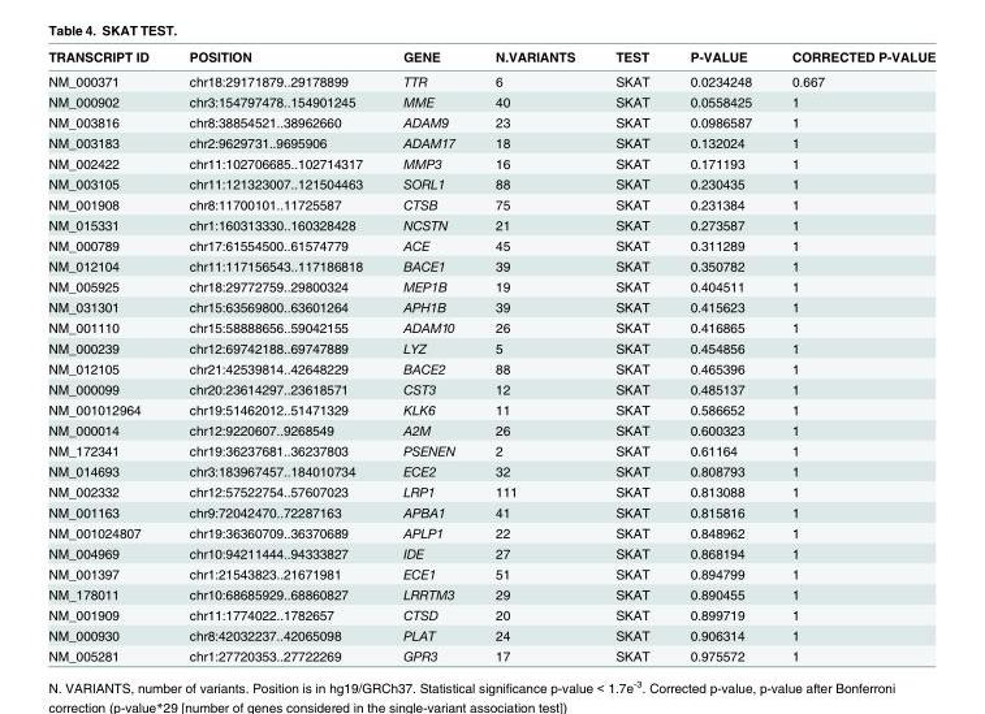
<table><thead><tr><td>TRANSCRIPT ID</td><td>POSITION</td><td>GENE</td><td>N.VARIANTS</td><td>TEST</td><td>P-VALUE</td><td>CORRECTED P-VALUE</td></tr></thead><tbody><tr><td>NM_000371</td><td>chr18:29171879..29178899</td><td>TTR</td><td>6</td><td>SKAT</td><td>0.0234248</td><td>0.667</td></tr><tr><td>NM_000902</td><td>chr3:154797478..154901245</td><td>MME</td><td>40</td><td>SKAT</td><td>0.0558425</td><td>1</td></tr><tr><td>NM_003816</td><td>chr8:38854521..38962660</td><td>ADAM9</td><td>23</td><td>SKAT</td><td>0.0986587</td><td>1</td></tr><tr><td>NM_003183</td><td>chr2:9629731..9695906</td><td>ADAM17</td><td>18</td><td>SKAT</td><td>0.132024</td><td>1</td></tr><tr><td>NM_002422</td><td>chr11:102706685..102714317</td><td>MMP3</td><td>16</td><td>SKAT</td><td>0.171193</td><td>1</td></tr><tr><td>NM_003105</td><td>chr11:121323007..121504463</td><td>SORL1</td><td>88</td><td>SKAT</td><td>0.230435</td><td>1</td></tr><tr><td>NM_001908</td><td>chr8:11700101..11725587</td><td>CTSB</td><td>75</td><td>SKAT</td><td>0.231384</td><td>1</td></tr><tr><td>NM_015331</td><td>chr1:160313330..160328428</td><td>NCSTN</td><td>21</td><td>SKAT</td><td>0.273587</td><td>1</td></tr><tr><td>NM_000789</td><td>chr17:61554500..61574779</td><td>ACE</td><td>45</td><td>SKAT</td><td>0.311289</td><td>1</td></tr><tr><td>NM_012104</td><td>chr11:117156543..117186818</td><td>BACE1</td><td>39</td><td>SKAT</td><td>0.350782</td><td>1</td></tr><tr><td>NM_005925</td><td>chr18:29772759..29800324</td><td>MEP1B</td><td>19</td><td>SKAT</td><td>0.404511</td><td>1</td></tr><tr><td>NM_031301</td><td>chr15:63569800..63601264</td><td>APH1B</td><td>39</td><td>SKAT</td><td>0.415623</td><td>1</td></tr><tr><td>NM_001110</td><td>chr15:58888656..59042155</td><td>ADAM10</td><td>26</td><td>SKAT</td><td>0.416865</td><td>1</td></tr><tr><td>NM_000239</td><td>chr12:69742188..69747889</td><td>LYZ</td><td>5</td><td>SKAT</td><td>0.454856</td><td>1</td></tr><tr><td>NM_012105</td><td>chr21:42539814..42648229</td><td>BACE2</td><td>88</td><td>SKAT</td><td>0.465396</td><td>1</td></tr><tr><td>NM_000099</td><td>chr20:23614297..23618571</td><td>CST3</td><td>12</td><td>SKAT</td><td>0.485137</td><td>1</td></tr><tr><td>NM_001012964</td><td>chr19:51462012..51471329</td><td>KLK6</td><td>11</td><td>SKAT</td><td>0.586652</td><td>1</td></tr><tr><td>NM_000014</td><td>chr12:9220607..9268549</td><td>A2M</td><td>26</td><td>SKAT</td><td>0.600323</td><td>1</td></tr><tr><td>NM_172341</td><td>chr19:36237681..36237803</td><td>PSENEN</td><td>2</td><td>SKAT</td><td>0.61164</td><td>1</td></tr><tr><td>NM_014693</td><td>chr3:183967457..184010734</td><td>ECE2</td><td>32</td><td>SKAT</td><td>0.808793</td><td>1</td></tr><tr><td>NM_002332</td><td>chr12:57522754..57607023</td><td>LRP1</td><td>111</td><td>SKAT</td><td>0.813088</td><td>1</td></tr><tr><td>NM_001163</td><td>chr9:72042470..72287163</td><td>APBA1</td><td>41</td><td>SKAT</td><td>0.815816</td><td>1</td></tr><tr><td>NM_001024807</td><td>chr19:36360709..36370689</td><td>APLP1</td><td>22</td><td>SKAT</td><td>0.848962</td><td>1</td></tr><tr><td>NM_004969</td><td>chr10:94211444..94333827</td><td>IDE</td><td>27</td><td>SKAT</td><td>0.868194</td><td>1</td></tr><tr><td>NM_001397</td><td>chr1:21543823..21671981</td><td>ECE1</td><td>51</td><td>SKAT</td><td>0.894799</td><td>1</td></tr><tr><td>NM_178011</td><td>chr10:68685929..68860827</td><td>LRRTM3</td><td>29</td><td>SKAT</td><td>0.890455</td><td>1</td></tr><tr><td>NM_001909</td><td>chr11:1774022..1782657</td><td>CTSD</td><td>20</td><td>SKAT</td><td>0.899719</td><td>1</td></tr><tr><td>NM_000930</td><td>chr8:42032237..42065098</td><td>PLAT</td><td>24</td><td>SKAT</td><td>0.906314</td><td>1</td></tr><tr><td>NM_005281</td><td>chr1:27720353..27722269</td><td>GPR3</td><td>17</td><td>SKAT</td><td>0.975572</td><td>1</td></tr></tbody></table>